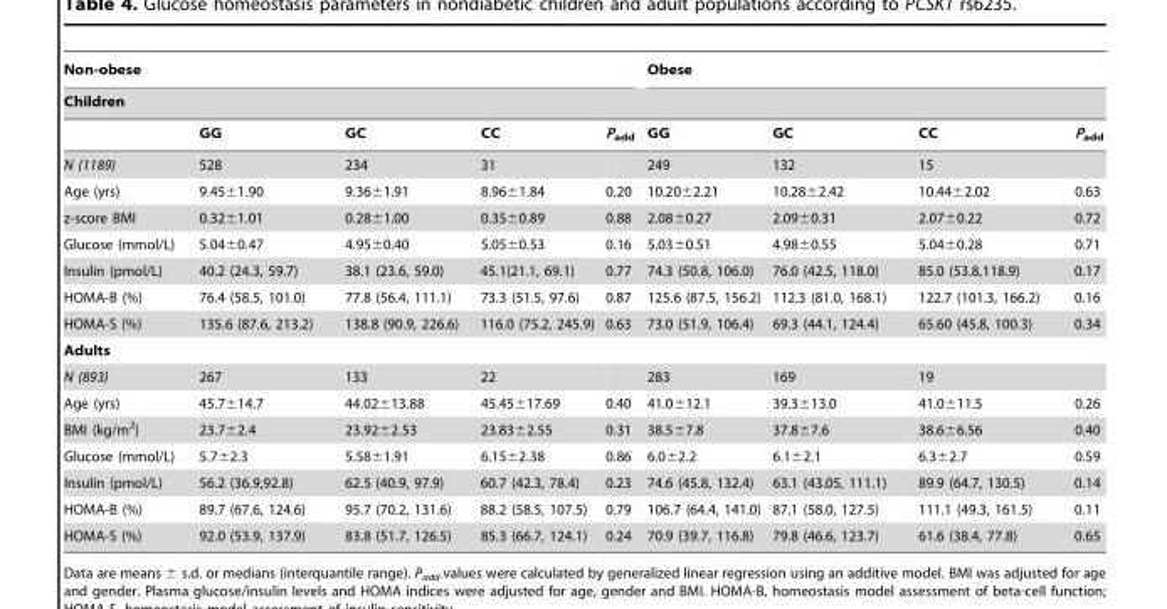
<table><thead><tr><td colspan="5">Non-obese</td><td colspan="4">Obese</td></tr><tr><td colspan="9">Children</td></tr><tr><td></td><td>GG</td><td>GC</td><td>CC</td><td>P<sub>add</sub></td><td>GG</td><td>GC</td><td>CC</td><td>P<sub>add</sub></td></tr></thead><tbody><tr><td>N (1189)</td><td>528</td><td>234</td><td>31</td><td></td><td>249</td><td>132</td><td>15</td><td></td></tr><tr><td>Age (yrs)</td><td>9.45±1.90</td><td>9.36±1.91</td><td>8.96±1.84</td><td>0.20</td><td>10.20±2.21</td><td>10.28±2.42</td><td>10.44±2.02</td><td>0.63</td></tr><tr><td>z-score BMI</td><td>0.32±1.01</td><td>0.28±1.00</td><td>0.35±0.89</td><td>0.88</td><td>2.08±0.27</td><td>2.09±0.31</td><td>2.07±0.22</td><td>0.72</td></tr><tr><td>Glucose (mmol/L)</td><td>5.04±0.47</td><td>4.95±0.40</td><td>5.05±0.53</td><td>0.16</td><td>5.03±0.51</td><td>4.98±0.55</td><td>5.04±0.28</td><td>0.71</td></tr><tr><td>Insulin (pmol/L)</td><td>40.2 (24.3, 59.7)</td><td>38.1 (23.6, 59.0)</td><td>45.1(21.1, 69.1)</td><td>0.77</td><td>74.3 (50.8, 106.0)</td><td>76.0 (42.5, 118.0)</td><td>85.0 (53.8,118.9)</td><td>0.17</td></tr><tr><td>HOMA-B (%)</td><td>76.4 (58.5, 101.0)</td><td>77.8 (56.4, 111.1)</td><td>73.3 (51.5, 97.6)</td><td>0.87</td><td>125.6 (87.5, 156.2)</td><td>112.3 (81.0, 168.1)</td><td>122.7 (101.3, 166.2)</td><td>0.16</td></tr><tr><td>HOMA-S (%)</td><td>135.6 (87.6, 213.2)</td><td>138.8 (90.9, 226.6)</td><td>116.0 (75.2, 245.9)</td><td>0.63</td><td>73.0 (51.9, 106.4)</td><td>69.3 (44.1, 124.4)</td><td>65.60 (45.8, 100.3)</td><td>0.34</td></tr><tr><td colspan="9">Adults</td></tr><tr><td>N (893)</td><td>267</td><td>133</td><td>22</td><td></td><td>283</td><td>169</td><td>19</td><td></td></tr><tr><td>Age (yrs)</td><td>45.7±14.7</td><td>44.02±13.88</td><td>45.45±17.69</td><td>0.40</td><td>41.0±12.1</td><td>39.3±13.0</td><td>41.0±11.5</td><td>0.26</td></tr><tr><td>BMI (kg/m<sup>2</sup>)</td><td>23.7±2.4</td><td>23.92±2.53</td><td>23.83±2.55</td><td>0.31</td><td>38.5±7.8</td><td>37.8±7.6</td><td>38.6±6.56</td><td>0.40</td></tr><tr><td>Glucose (mmol/L)</td><td>5.7±2.3</td><td>5.58±1.91</td><td>6.15±2.38</td><td>0.86</td><td>6.0±2.2</td><td>6.1±2.1</td><td>6.3±2.7</td><td>0.59</td></tr><tr><td>Insulin (pmol/L)</td><td>56.2 (36.9,92.8)</td><td>62.5 (40.9, 97.9)</td><td>60.7 (42.3, 78.4)</td><td>0.23</td><td>74.6 (45.8, 132.4)</td><td>63.1 (43.05, 111.1)</td><td>89.9 (64.7, 130.5)</td><td>0.14</td></tr><tr><td>HOMA-B (%)</td><td>89.7 (67.6, 124.6)</td><td>95.7 (70.2, 131.6)</td><td>88.2 (58.5, 107.5)</td><td>0.79</td><td>106.7 (64.4, 141.0)</td><td>87.1 (58.0, 127.5)</td><td>111.1 (49.3, 161.5)</td><td>0.11</td></tr><tr><td>HOMA-S (%)</td><td>92.0 (53.9, 137.9)</td><td>83.8 (51.7, 126.5)</td><td>85.3 (66.7, 124.1)</td><td>0.24</td><td>70.9 (39.7, 116.8)</td><td>79.8 (46.6, 123.7)</td><td>61.6 (38.4, 77.8)</td><td>0.65</td></tr></tbody></table>